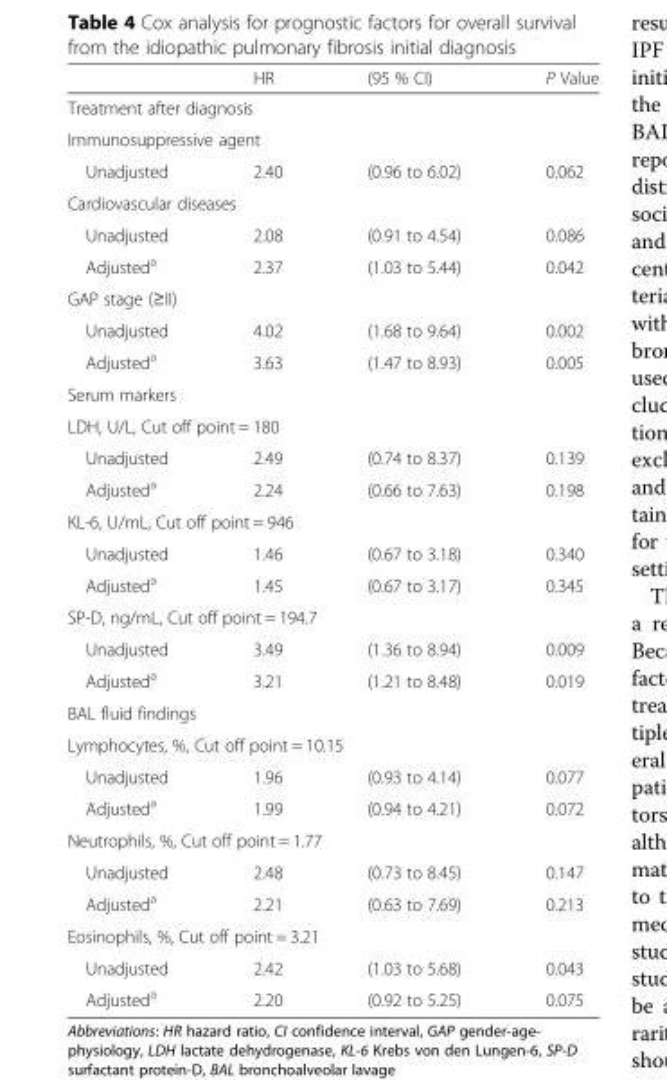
<table><thead><tr><td></td><td>HR</td><td>(95 % CI)</td><td>P Value</td></tr></thead><tbody><tr><td colspan="4">Treatment after diagnosis</td></tr><tr><td colspan="4">Immunosuppressive agent</td></tr><tr><td>Unadjusted</td><td>2.40</td><td>(0.96 to 6.02)</td><td>0.062</td></tr><tr><td colspan="4">Cardiovascular diseases</td></tr><tr><td>Unadjusted</td><td>2.08</td><td>(0.91 to 4.54)</td><td>0.086</td></tr><tr><td>Adjusted<sup>a</sup></td><td>2.37</td><td>(1.03 to 5.44)</td><td>0.042</td></tr><tr><td colspan="4">GAP stage (≥II)</td></tr><tr><td>Unadjusted</td><td>4.02</td><td>(1.68 to 9.64)</td><td>0.002</td></tr><tr><td>Adjusted<sup>a</sup></td><td>3.63</td><td>(1.47 to 8.93)</td><td>0.005</td></tr><tr><td colspan="4">Serum markers</td></tr><tr><td colspan="4">LDH, U/L, Cut off point = 180</td></tr><tr><td>Unadjusted</td><td>2.49</td><td>(0.74 to 8.37)</td><td>0.139</td></tr><tr><td>Adjusted<sup>a</sup></td><td>2.24</td><td>(0.66 to 7.63)</td><td>0.198</td></tr><tr><td colspan="4">KL-6, U/mL, Cut off point = 946</td></tr><tr><td>Unadjusted</td><td>1.46</td><td>(0.67 to 3.18)</td><td>0.340</td></tr><tr><td>Adjusted<sup>a</sup></td><td>1.45</td><td>(0.67 to 3.17)</td><td>0.345</td></tr><tr><td colspan="4">SP-D, ng/mL, Cut off point = 194.7</td></tr><tr><td>Unadjusted</td><td>3.49</td><td>(1.36 to 8.94)</td><td>0.009</td></tr><tr><td>Adjusted<sup>a</sup></td><td>3.21</td><td>(1.21 to 8.48)</td><td>0.019</td></tr><tr><td colspan="4">BAL fluid findings</td></tr><tr><td colspan="4">Lymphocytes, %, Cut off point = 10.15</td></tr><tr><td>Unadjusted</td><td>1.96</td><td>(0.93 to 4.14)</td><td>0.077</td></tr><tr><td>Adjusted<sup>a</sup></td><td>1.99</td><td>(0.94 to 4.21)</td><td>0.072</td></tr><tr><td colspan="4">Neutrophils, %, Cut off point = 1.77</td></tr><tr><td>Unadjusted</td><td>2.48</td><td>(0.73 to 8.45)</td><td>0.147</td></tr><tr><td>Adjusted<sup>a</sup></td><td>2.21</td><td>(0.63 to 7.69)</td><td>0.213</td></tr><tr><td colspan="4">Eosinophils, %, Cut off point = 3.21</td></tr><tr><td>Unadjusted</td><td>2.42</td><td>(1.03 to 5.68)</td><td>0.043</td></tr><tr><td>Adjusted<sup>a</sup></td><td>2.20</td><td>(0.92 to 5.25)</td><td>0.075</td></tr></tbody></table>